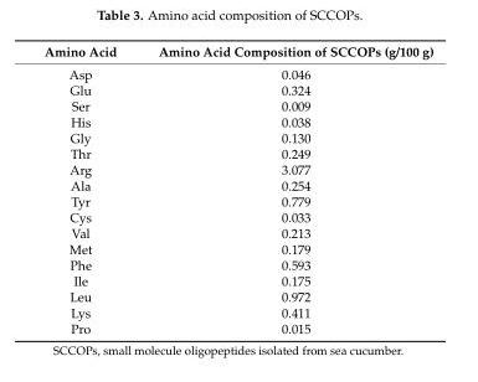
<table><thead><tr><td>Amino Acid</td><td>Amino Acid Composition of SCCOPs (g/100 g)</td></tr></thead><tbody><tr><td>Asp</td><td>0.046</td></tr><tr><td>Glu</td><td>0.324</td></tr><tr><td>Ser</td><td>0.009</td></tr><tr><td>His</td><td>0.038</td></tr><tr><td>Gly</td><td>0.130</td></tr><tr><td>Thr</td><td>0.249</td></tr><tr><td>Arg</td><td>3.077</td></tr><tr><td>Ala</td><td>0.254</td></tr><tr><td>Tyr</td><td>0.779</td></tr><tr><td>Cys</td><td>0.033</td></tr><tr><td>Val</td><td>0.213</td></tr><tr><td>Met</td><td>0.179</td></tr><tr><td>Phe</td><td>0.593</td></tr><tr><td>Ile</td><td>0.175</td></tr><tr><td>Leu</td><td>0.972</td></tr><tr><td>Lys</td><td>0.411</td></tr><tr><td>Pro</td><td>0.015</td></tr></tbody></table>